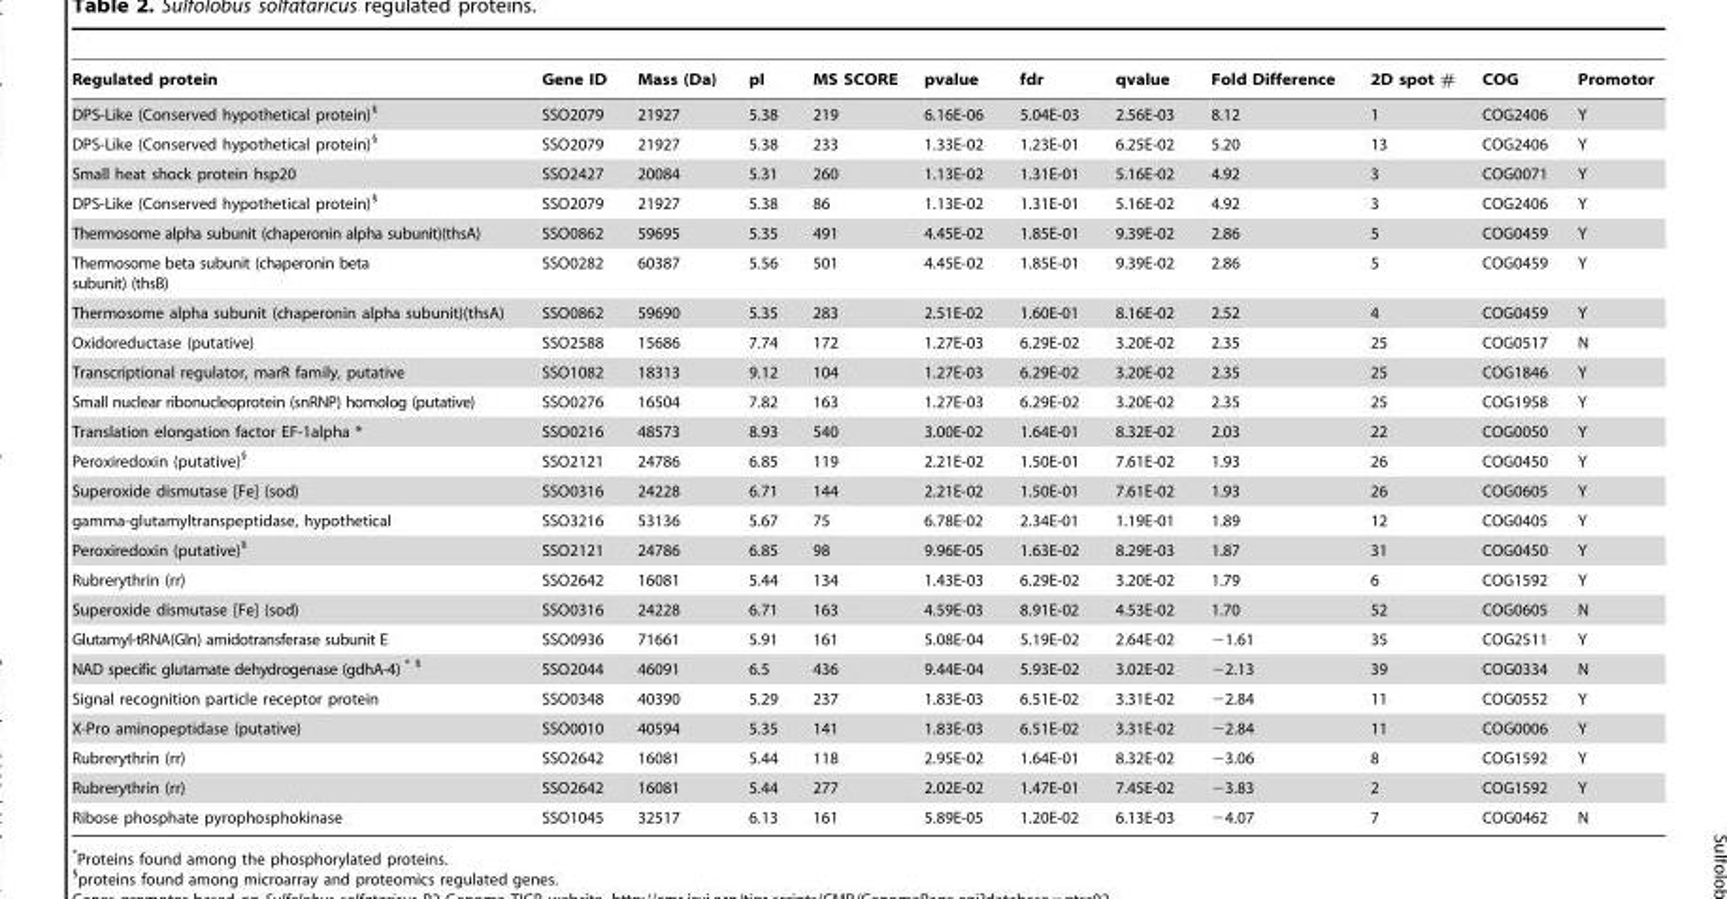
<table><thead><tr><td>Regulated protein</td><td>Gene ID</td><td>Mass (Da)</td><td>pI</td><td>MS SCORE</td><td>pvalue</td><td>fdr</td><td>qvalue</td><td>Fold Difference</td><td>2D spot #</td><td>COG</td><td>Promotor</td></tr></thead><tbody><tr><td>DPS-Like (Conserved hypothetical protein)§</td><td>SSO2079</td><td>21927</td><td>5.38</td><td>219</td><td>6.16E-06</td><td>5.04E-03</td><td>2.56E-03</td><td>8.12</td><td>1</td><td>COG2406</td><td>Y</td></tr><tr><td>DPS-Like (Conserved hypothetical protein)§</td><td>SSO2079</td><td>21927</td><td>5.38</td><td>233</td><td>1.33E-02</td><td>1.23E-01</td><td>6.25E-02</td><td>5.20</td><td>13</td><td>COG2406</td><td>Y</td></tr><tr><td>Small heat shock protein hsp20</td><td>SSO2427</td><td>20084</td><td>5.31</td><td>260</td><td>1.13E-02</td><td>1.31E-01</td><td>5.16E-02</td><td>4.92</td><td>3</td><td>COG0071</td><td>Y</td></tr><tr><td>DPS-Like (Conserved hypothetical protein)§</td><td>SSO2079</td><td>21927</td><td>5.38</td><td>86</td><td>1.13E-02</td><td>1.31E-01</td><td>5.16E-02</td><td>4.92</td><td>3</td><td>COG2406</td><td>Y</td></tr><tr><td>Thermosome alpha subunit (chaperonin alpha subunit)(thsA)</td><td>SSO0862</td><td>59695</td><td>5.35</td><td>491</td><td>4.45E-02</td><td>1.85E-01</td><td>9.39E-02</td><td>2.86</td><td>5</td><td>COG0459</td><td>Y</td></tr><tr><td>Thermosome beta subunit (chaperonin beta subunit) (thsB)</td><td>SSO0282</td><td>60387</td><td>5.56</td><td>501</td><td>4.45E-02</td><td>1.85E-01</td><td>9.39E-02</td><td>2.86</td><td>5</td><td>COG0459</td><td>Y</td></tr><tr><td>Thermosome alpha subunit (chaperonin alpha subunit)(thsA)</td><td>SSO0862</td><td>59690</td><td>5.35</td><td>283</td><td>2.51E-02</td><td>1.60E-01</td><td>8.16E-02</td><td>2.52</td><td>4</td><td>COG0459</td><td>Y</td></tr><tr><td>Oxidoreductase (putative)</td><td>SSO2588</td><td>15686</td><td>7.74</td><td>172</td><td>1.27E-03</td><td>6.29E-02</td><td>3.20E-02</td><td>2.35</td><td>25</td><td>COG0517</td><td>N</td></tr><tr><td>Transcriptional regulator, marR family, putative</td><td>SSO1082</td><td>18313</td><td>9.12</td><td>104</td><td>1.27E-03</td><td>6.29E-02</td><td>3.20E-02</td><td>2.35</td><td>25</td><td>COG1846</td><td>Y</td></tr><tr><td>Small nuclear ribonucleoprotein (snRNP) homolog (putative)</td><td>SSO0276</td><td>16504</td><td>7.82</td><td>163</td><td>1.27E-03</td><td>6.29E-02</td><td>3.20E-02</td><td>2.35</td><td>25</td><td>COG1958</td><td>Y</td></tr><tr><td>Translation elongation factor EF-1alpha *</td><td>SSO0216</td><td>48573</td><td>8.93</td><td>540</td><td>3.00E-02</td><td>1.64E-01</td><td>8.32E-02</td><td>2.03</td><td>22</td><td>COG0050</td><td>Y</td></tr><tr><td>Peroxiredoxin (putative)§</td><td>SSO2121</td><td>24786</td><td>6.85</td><td>119</td><td>2.21E-02</td><td>1.50E-01</td><td>7.61E-02</td><td>1.93</td><td>26</td><td>COG0450</td><td>Y</td></tr><tr><td>Superoxide dismutase [Fe] (sod)</td><td>SSO0316</td><td>24228</td><td>6.71</td><td>144</td><td>2.21E-02</td><td>1.50E-01</td><td>7.61E-02</td><td>1.93</td><td>26</td><td>COG0605</td><td>Y</td></tr><tr><td>gamma-glutamyltranspeptidase, hypothetical</td><td>SSO3216</td><td>53136</td><td>5.67</td><td>75</td><td>6.78E-02</td><td>2.34E-01</td><td>1.19E-01</td><td>1.89</td><td>12</td><td>COG0405</td><td>Y</td></tr><tr><td>Peroxiredoxin (putative)§</td><td>SSO2121</td><td>24786</td><td>6.85</td><td>98</td><td>9.96E-05</td><td>1.63E-02</td><td>8.29E-03</td><td>1.87</td><td>31</td><td>COG0450</td><td>Y</td></tr><tr><td>Rubrerythrin (rr)</td><td>SSO2642</td><td>16081</td><td>5.44</td><td>134</td><td>1.43E-03</td><td>6.29E-02</td><td>3.20E-02</td><td>1.79</td><td>6</td><td>COG1592</td><td>Y</td></tr><tr><td>Superoxide dismutase [Fe] (sod)</td><td>SSO0316</td><td>24228</td><td>6.71</td><td>163</td><td>4.59E-03</td><td>8.91E-02</td><td>4.53E-02</td><td>1.70</td><td>52</td><td>COG0605</td><td>N</td></tr><tr><td>Glutamyl-tRNA(Gln) amidotransferase subunit E</td><td>SSO0936</td><td>71661</td><td>5.91</td><td>161</td><td>5.08E-04</td><td>5.19E-02</td><td>2.64E-02</td><td>−1.61</td><td>35</td><td>COG2511</td><td>Y</td></tr><tr><td>NAD specific glutamate dehydrogenase (gdhA-4) * §</td><td>SSO2044</td><td>46091</td><td>6.5</td><td>436</td><td>9.44E-04</td><td>5.93E-02</td><td>3.02E-02</td><td>−2.13</td><td>39</td><td>COG0334</td><td>N</td></tr><tr><td>Signal recognition particle receptor protein</td><td>SSO0348</td><td>40390</td><td>5.29</td><td>237</td><td>1.83E-03</td><td>6.51E-02</td><td>3.31E-02</td><td>−2.84</td><td>11</td><td>COG0552</td><td>Y</td></tr><tr><td>X-Pro aminopeptidase (putative)</td><td>SSO0010</td><td>40594</td><td>5.35</td><td>141</td><td>1.83E-03</td><td>6.51E-02</td><td>3.31E-02</td><td>−2.84</td><td>11</td><td>COG0006</td><td>Y</td></tr><tr><td>Rubrerythrin (rr)</td><td>SSO2642</td><td>16081</td><td>5.44</td><td>118</td><td>2.95E-02</td><td>1.64E-01</td><td>8.32E-02</td><td>−3.06</td><td>8</td><td>COG1592</td><td>Y</td></tr><tr><td>Rubrerythrin (rr)</td><td>SSO2642</td><td>16081</td><td>5.44</td><td>277</td><td>2.02E-02</td><td>1.47E-01</td><td>7.45E-02</td><td>−3.83</td><td>2</td><td>COG1592</td><td>Y</td></tr><tr><td>Ribose phosphate pyrophosphokinase</td><td>SSO1045</td><td>32517</td><td>6.13</td><td>161</td><td>5.89E-05</td><td>1.20E-02</td><td>6.13E-03</td><td>−4.07</td><td>7</td><td>COG0462</td><td>N</td></tr></tbody></table>